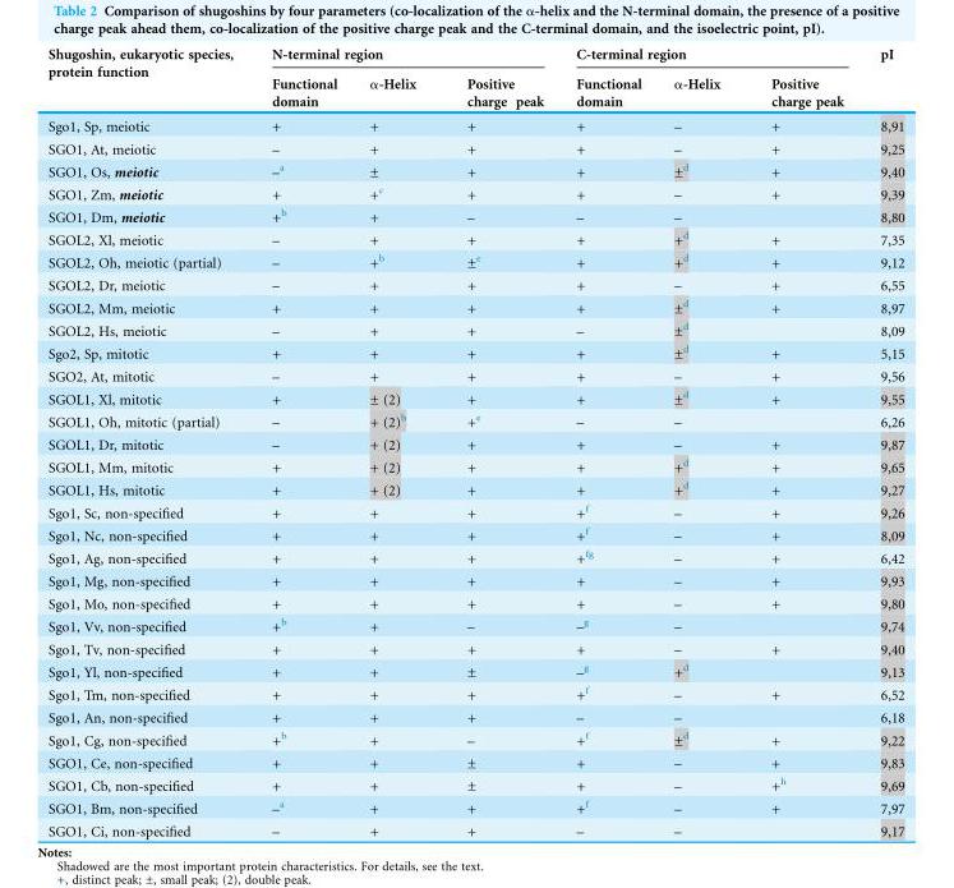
<table><thead><tr><td rowspan="2">Shugoshin, eukaryotic species, protein function</td><td colspan="3">N-terminal region</td><td colspan="3">C-terminal region</td><td rowspan="2">pI</td></tr><tr><td>Functional domain</td><td>α-Helix</td><td>Positive charge peak</td><td>Functional domain</td><td>α-Helix</td><td>Positive charge peak</td></tr></thead><tbody><tr><td>Sgo1, Sp, meiotic</td><td>+</td><td>+</td><td>+</td><td>+</td><td>–</td><td>+</td><td>8,91</td></tr><tr><td>SGO1, At, meiotic</td><td>–</td><td>+</td><td>+</td><td>+</td><td>–</td><td>+</td><td>9,25</td></tr><tr><td>SGO1, Os, meiotic</td><td>–<sup>a</sup></td><td>±</td><td>+</td><td>+</td><td>±<sup>d</sup></td><td>+</td><td>9,40</td></tr><tr><td>SGO1, Zm, meiotic</td><td>+</td><td>+<sup>c</sup></td><td>+</td><td>+</td><td>–</td><td>+</td><td>9,39</td></tr><tr><td>SGO1, Dm, meiotic</td><td>+<sup>b</sup></td><td>+</td><td>–</td><td>–</td><td>–</td><td></td><td>8,80</td></tr><tr><td>SGOL2, Xl, meiotic</td><td>–</td><td>+</td><td>+</td><td>+</td><td>+<sup>d</sup></td><td>+</td><td>7,35</td></tr><tr><td>SGOL2, Oh, meiotic (partial)</td><td>–</td><td>+<sup>b</sup></td><td>±<sup>e</sup></td><td>+</td><td>+<sup>d</sup></td><td>+</td><td>9,12</td></tr><tr><td>SGOL2, Dr, meiotic</td><td>–</td><td>+</td><td>+</td><td>+</td><td>–</td><td>+</td><td>6,55</td></tr><tr><td>SGOL2, Mm, meiotic</td><td>+</td><td>+</td><td>+</td><td>+</td><td>±<sup>d</sup></td><td>+</td><td>8,97</td></tr><tr><td>SGOL2, Hs, meiotic</td><td>–</td><td>+</td><td>+</td><td>–</td><td>±<sup>d</sup></td><td></td><td>8,09</td></tr><tr><td>Sgo2, Sp, mitotic</td><td>+</td><td>+</td><td>+</td><td>+</td><td>±<sup>d</sup></td><td>+</td><td>5,15</td></tr><tr><td>SGO2, At, mitotic</td><td>–</td><td>+</td><td>+</td><td>+</td><td>–</td><td>+</td><td>9,56</td></tr><tr><td>SGOL1, Xl, mitotic</td><td>+</td><td>± (2)</td><td>+</td><td>+</td><td>±<sup>d</sup></td><td>+</td><td>9,55</td></tr><tr><td>SGOL1, Oh, mitotic (partial)</td><td>–</td><td>+ (2)<sup>b</sup></td><td>+<sup>e</sup></td><td>–</td><td>–</td><td></td><td>6,26</td></tr><tr><td>SGOL1, Dr, mitotic</td><td>–</td><td>+ (2)</td><td>+</td><td>+</td><td>–</td><td>+</td><td>9,87</td></tr><tr><td>SGOL1, Mm, mitotic</td><td>+</td><td>+ (2)</td><td>+</td><td>+</td><td>+<sup>d</sup></td><td>+</td><td>9,65</td></tr><tr><td>SGOL1, Hs, mitotic</td><td>+</td><td>+ (2)</td><td>+</td><td>+</td><td>+<sup>d</sup></td><td>+</td><td>9,27</td></tr><tr><td>Sgo1, Sc, non-specified</td><td>+</td><td>+</td><td>+</td><td>+<sup>f</sup></td><td>–</td><td>+</td><td>9,26</td></tr><tr><td>Sgo1, Nc, non-specified</td><td>+</td><td>+</td><td>+</td><td>+<sup>f</sup></td><td>–</td><td>+</td><td>8,09</td></tr><tr><td>Sgo1, Ag, non-specified</td><td>+</td><td>+</td><td>+</td><td>+<sup>fg</sup></td><td>–</td><td>+</td><td>6,42</td></tr><tr><td>Sgo1, Mg, non-specified</td><td>+</td><td>+</td><td>+</td><td>+</td><td>–</td><td>+</td><td>9,93</td></tr><tr><td>Sgo1, Mo, non-specified</td><td>+</td><td>+</td><td>+</td><td>+</td><td>–</td><td>+</td><td>9,80</td></tr><tr><td>Sgo1, Vv, non-specified</td><td>+<sup>b</sup></td><td>+</td><td>–</td><td>–<sup>g</sup></td><td>–</td><td></td><td>9,74</td></tr><tr><td>Sgo1, Tv, non-specified</td><td>+</td><td>+</td><td>+</td><td>+</td><td>–</td><td>+</td><td>9,40</td></tr><tr><td>Sgo1, Yl, non-specified</td><td>+</td><td>+</td><td>±</td><td>–<sup>g</sup></td><td>+<sup>d</sup></td><td></td><td>9,13</td></tr><tr><td>Sgo1, Tm, non-specified</td><td>+</td><td>+</td><td>+</td><td>+<sup>f</sup></td><td>–</td><td>+</td><td>6,52</td></tr><tr><td>Sgo1, An, non-specified</td><td>+</td><td>+</td><td>+</td><td>–</td><td>–</td><td></td><td>6,18</td></tr><tr><td>Sgo1, Cg, non-specified</td><td>+<sup>b</sup></td><td>+</td><td>–</td><td>+<sup>f</sup></td><td>±<sup>d</sup></td><td>+</td><td>9,22</td></tr><tr><td>SGO1, Ce, non-specified</td><td>+</td><td>+</td><td>±</td><td>+</td><td>–</td><td>+</td><td>9,83</td></tr><tr><td>SGO1, Cb, non-specified</td><td>+</td><td>+</td><td>±</td><td>+</td><td>–</td><td>+<sup>h</sup></td><td>9,69</td></tr><tr><td>SGO1, Bm, non-specified</td><td>–<sup>a</sup></td><td>+</td><td>+</td><td>+<sup>f</sup></td><td>–</td><td>+</td><td>7,97</td></tr><tr><td>SGO1, Ci, non-specified</td><td>–</td><td>+</td><td>+</td><td>–</td><td>–</td><td></td><td>9,17</td></tr></tbody></table>